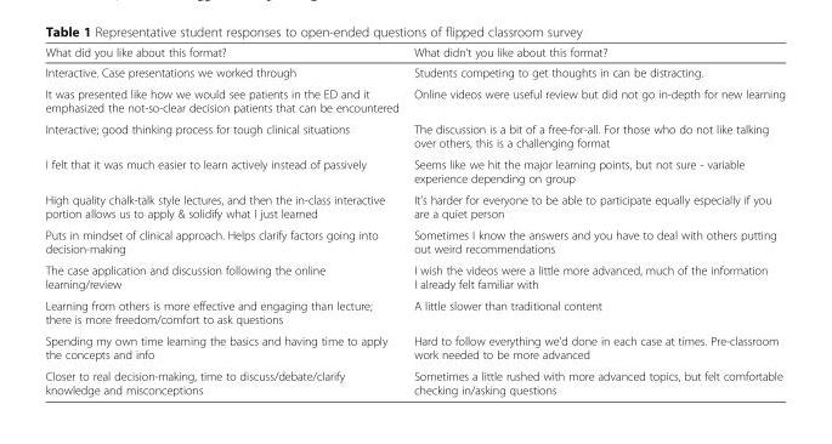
<table><thead><tr><td>What did you like about this format?</td><td>What didn’t you like about this format?</td></tr></thead><tbody><tr><td>Interactive. Case presentations we worked through</td><td>Students competing to get thoughts in can be distracting.</td></tr><tr><td>It was presented like how we would see patients in the ED and it emphasized the not-so-clear decision patients that can be encountered</td><td>Online videos were useful review but did not go in-depth for new learning</td></tr><tr><td>Interactive; good thinking process for tough clinical situations</td><td>The discussion is a bit of a free-for-all. For those who do not like talking over others, this is a challenging format</td></tr><tr><td>I felt that it was much easier to learn actively instead of passively</td><td>Seems like we hit the major learning points, but not sure - variable experience depending on group</td></tr><tr><td>High quality chalk-talk style lectures, and then the in-class interactive portion allows us to apply &amp; solidify what I just learned</td><td>It’s harder for everyone to be able to participate equally especially if you are a quiet person</td></tr><tr><td>Puts in mindset of clinical approach. Helps clarify factors going into decision-making</td><td>Sometimes I know the answers and you have to deal with others putting out weird recommendations</td></tr><tr><td>The case application and discussion following the online learning/review</td><td>I wish the videos were a little more advanced, much of the information I already felt familiar with</td></tr><tr><td>Learning from others is more effective and engaging than lecture; there is more freedom/comfort to ask questions</td><td>A little slower than traditional content</td></tr><tr><td>Spending my own time learning the basics and having time to apply the concepts and info</td><td>Hard to follow everything we’d done in each case at times. Pre-classroom work needed to be more advanced</td></tr><tr><td>Closer to real decision-making, time to discuss/debate/clarify knowledge and misconceptions</td><td>Sometimes a little rushed with more advanced topics, but felt comfortable checking in/asking questions</td></tr></tbody></table>